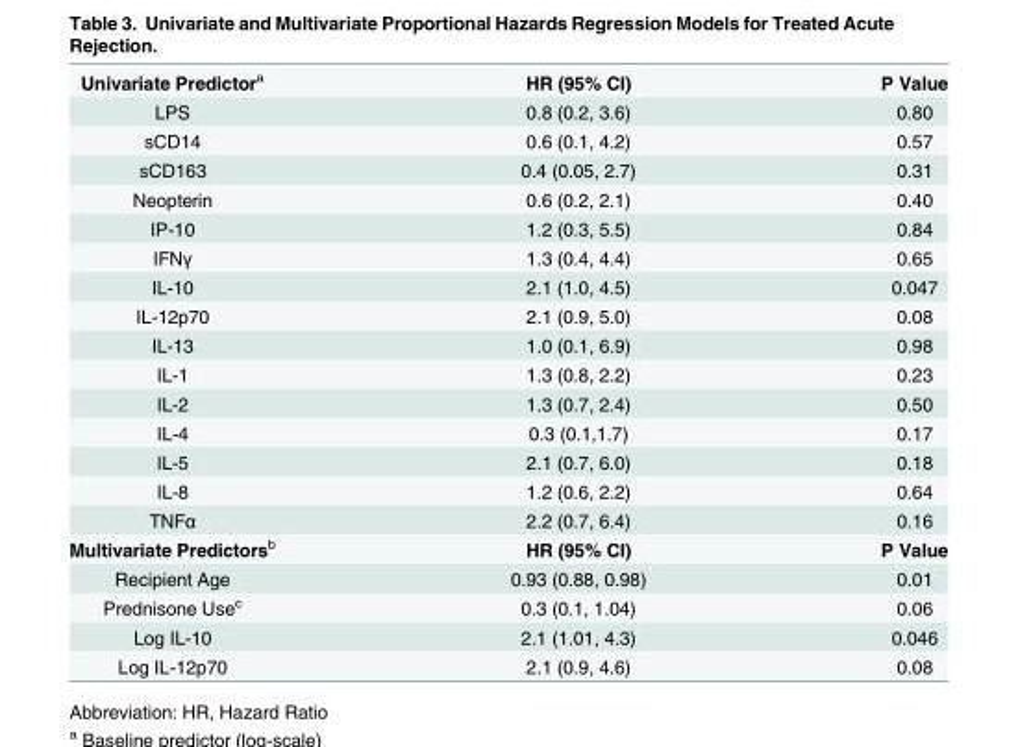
<table><tbody><tr><td>Univariate Predictor<sup>a</sup></td><td>HR (95% CI)</td><td>P Value</td></tr><tr><td>LPS</td><td>0.8 (0.2, 3.6)</td><td>0.80</td></tr><tr><td>sCD14</td><td>0.6 (0.1, 4.2)</td><td>0.57</td></tr><tr><td>sCD163</td><td>0.4 (0.05, 2.7)</td><td>0.31</td></tr><tr><td>Neopterin</td><td>0.6 (0.2, 2.1)</td><td>0.40</td></tr><tr><td>IP-10</td><td>1.2 (0.3, 5.5)</td><td>0.84</td></tr><tr><td>IFNγ</td><td>1.3 (0.4, 4.4)</td><td>0.65</td></tr><tr><td>IL-10</td><td>2.1 (1.0, 4.5)</td><td>0.047</td></tr><tr><td>IL-12p70</td><td>2.1 (0.9, 5.0)</td><td>0.08</td></tr><tr><td>IL-13</td><td>1.0 (0.1, 6.9)</td><td>0.98</td></tr><tr><td>IL-1</td><td>1.3 (0.8, 2.2)</td><td>0.23</td></tr><tr><td>IL-2</td><td>1.3 (0.7, 2.4)</td><td>0.50</td></tr><tr><td>IL-4</td><td>0.3 (0.1,1.7)</td><td>0.17</td></tr><tr><td>IL-5</td><td>2.1 (0.7, 6.0)</td><td>0.18</td></tr><tr><td>IL-8</td><td>1.2 (0.6, 2.2)</td><td>0.64</td></tr><tr><td>TNFα</td><td>2.2 (0.7, 6.4)</td><td>0.16</td></tr><tr><td>Multivariate Predictors<sup>b</sup></td><td>HR (95% CI)</td><td>P Value</td></tr><tr><td>Recipient Age</td><td>0.93 (0.88, 0.98)</td><td>0.01</td></tr><tr><td>Prednisone Use<sup>c</sup></td><td>0.3 (0.1, 1.04)</td><td>0.06</td></tr><tr><td>Log IL-10</td><td>2.1 (1.01, 4.3)</td><td>0.046</td></tr><tr><td>Log IL-12p70</td><td>2.1 (0.9, 4.6)</td><td>0.08</td></tr></tbody></table>